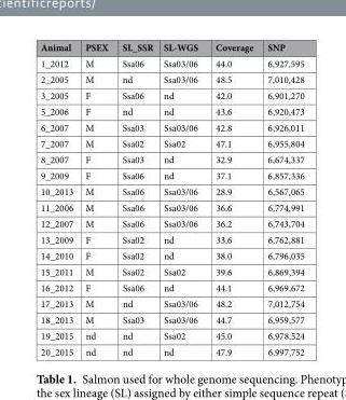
<table><thead><tr><td>Animal</td><td>PSEX</td><td>SL_SSR</td><td>SL-WGS</td><td>Coverage</td><td>SNP</td></tr></thead><tbody><tr><td>1_2012</td><td>M</td><td>Ssa06</td><td>Ssa03/06</td><td>44.0</td><td>6,927,595</td></tr><tr><td>2_2005</td><td>M</td><td>nd</td><td>Ssa03/06</td><td>48.5</td><td>7,010,428</td></tr><tr><td>3_2005</td><td>F</td><td>Ssa06</td><td>nd</td><td>42.0</td><td>6,901,270</td></tr><tr><td>5_2006</td><td>F</td><td>nd</td><td>nd</td><td>43.6</td><td>6,920,473</td></tr><tr><td>6_2007</td><td>M</td><td>Ssa03</td><td>Ssa03/06</td><td>42.8</td><td>6,926,011</td></tr><tr><td>7_2007</td><td>M</td><td>Ssa02</td><td>Ssa02</td><td>47.1</td><td>6,955,804</td></tr><tr><td>8_2007</td><td>F</td><td>Ssa03</td><td>nd</td><td>32.9</td><td>6,674,337</td></tr><tr><td>9_2009</td><td>F</td><td>Ssa06</td><td>nd</td><td>37.1</td><td>6,857,336</td></tr><tr><td>10_2013</td><td>M</td><td>Ssa06</td><td>Ssa03/06</td><td>28.9</td><td>6,567,065</td></tr><tr><td>11_2006</td><td>M</td><td>Ssa06</td><td>Ssa03/06</td><td>36.6</td><td>6,774,991</td></tr><tr><td>12_2007</td><td>M</td><td>Ssa06</td><td>Ssa03/06</td><td>36.2</td><td>6,743,704</td></tr><tr><td>13_2009</td><td>F</td><td>Ssa02</td><td>nd</td><td>33.6</td><td>6,762,881</td></tr><tr><td>14_2010</td><td>F</td><td>Ssa02</td><td>nd</td><td>38.0</td><td>6,796,035</td></tr><tr><td>15_2011</td><td>M</td><td>Ssa02</td><td>Ssa02</td><td>39.6</td><td>6,869,394</td></tr><tr><td>16_2012</td><td>F</td><td>Ssa06</td><td>nd</td><td>44.1</td><td>6,969,672</td></tr><tr><td>17_2013</td><td>M</td><td>nd</td><td>Ssa03/06</td><td>48.2</td><td>7,012,754</td></tr><tr><td>18_2013</td><td>M</td><td>Ssa03</td><td>Ssa03/06</td><td>44.7</td><td>6,959,577</td></tr><tr><td>19_2015</td><td>nd</td><td>nd</td><td>Ssa02</td><td>45.0</td><td>6,978,524</td></tr><tr><td>20_2015</td><td>nd</td><td>nd</td><td>nd</td><td>47.9</td><td>6,997,752</td></tr></tbody></table>